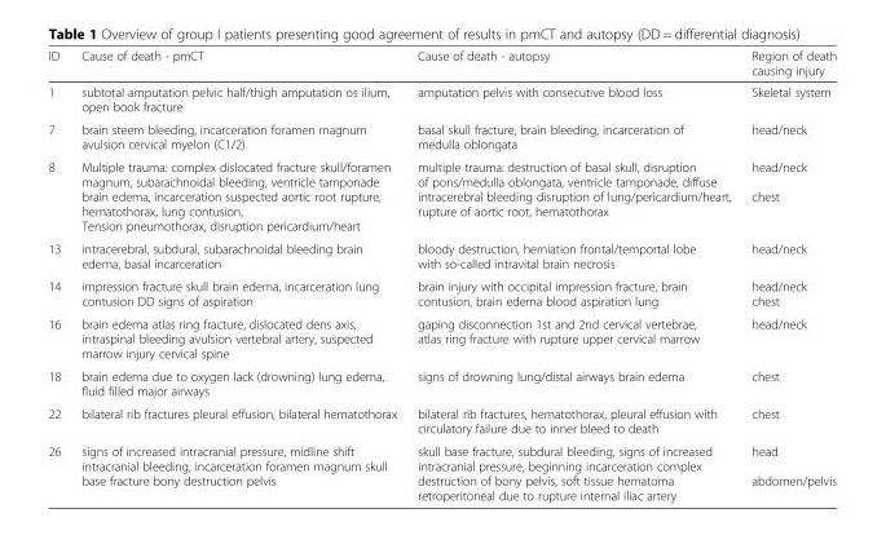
<table><thead><tr><td>ID</td><td>Cause of death - pmCT</td><td>Cause of death - autopsy</td><td>Region of death causing injury</td></tr></thead><tbody><tr><td>1</td><td>subtotal amputation pelvic half/thigh amputation os ilium, open book fracture</td><td>amputation pelvis with consecutive blood loss</td><td>Skeletal system</td></tr><tr><td>7</td><td>brain steem bleeding, incarceration foramen magnum avulsion cervical myelon (C1/2)</td><td>basal skull fracture, brain bleeding, incarceration of medulla oblongata</td><td>head/neck</td></tr><tr><td>8</td><td>Multiple trauma: complex dislocated fracture skull/foramen magnum, subarachnoidal bleeding, ventricle tamponade brain edema, incarceration suspected aortic root rupture, hematothorax, lung contusion, Tension pneumothorax, disruption pericardium/heart</td><td>multiple trauma: destruction of basal skull, disruption of pons/medulla oblongata, ventricle tamponade, diffuse intracerebral bleeding disruption of lung/pericardium/heart, rupture of aortic root, hematothorax</td><td>head/neck chest</td></tr><tr><td>13</td><td>intracerebral, subdural, subarachnoidal bleeding brain edema, basal incarceration</td><td>bloody destruction, herniation frontal/temportal lobe with so-called intravital brain necrosis</td><td>head/neck</td></tr><tr><td>14</td><td>impression fracture skull brain edema, incarceration lung contusion DD signs of aspiration</td><td>brain injury with occipital impression fracture, brain contusion, brain edema blood aspiration lung</td><td>head/neck chest</td></tr><tr><td>16</td><td>brain edema atlas ring fracture, dislocated dens axis, intraspinal bleeding avulsion vertebral artery, suspected marrow injury cervical spine</td><td>gaping disconnection 1st and 2nd cervical vertebrae, atlas ring fracture with rupture upper cervical marrow</td><td>head/neck</td></tr><tr><td>18</td><td>brain edema due to oxygen lack (drowning) lung edema, fluid filled major airways</td><td>signs of drowning lung/distal airways brain edema</td><td>chest</td></tr><tr><td>22</td><td>bilateral rib fractures pleural effusion, bilateral hematothorax</td><td>bilateral rib fractures, hematothorax, pleural effusion with circulatory failure due to inner bleed to death</td><td>chest</td></tr><tr><td>26</td><td>signs of increased intracranial pressure, midline shift intracranial bleeding, incarceration foramen magnum skull base fracture bony destruction pelvis</td><td>skull base fracture, subdural bleeding, signs of increased intracranial pressure, beginning incarceration complex destruction of bony pelvis, soft tissue hematoma retroperitoneal due to rupture internal iliac artery</td><td>head abdomen/pelvis</td></tr></tbody></table>